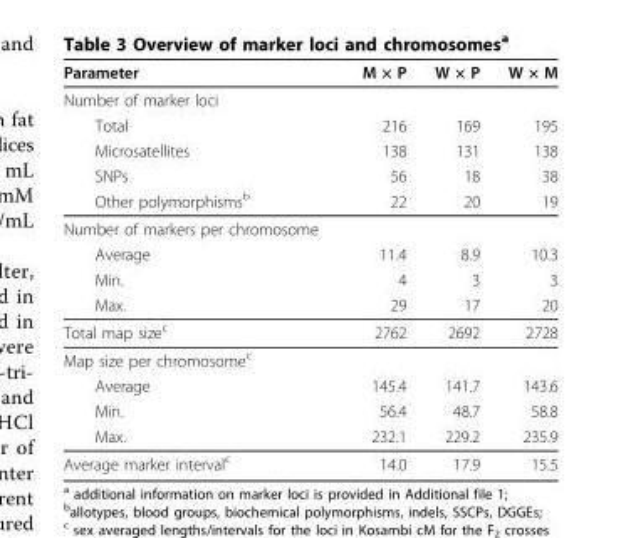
<table><thead><tr><td>Parameter</td><td>M × P</td><td>W × P</td><td>W × M</td></tr></thead><tbody><tr><td colspan="4">Number of marker loci</td></tr><tr><td>Total</td><td>216</td><td>169</td><td>195</td></tr><tr><td>Microsatellites</td><td>138</td><td>131</td><td>138</td></tr><tr><td>SNPs</td><td>56</td><td>18</td><td>38</td></tr><tr><td>Other polymorphisms<sup>b</sup></td><td>22</td><td>20</td><td>19</td></tr><tr><td colspan="4">Number of markers per chromosome</td></tr><tr><td>Average</td><td>11.4</td><td>8.9</td><td>10.3</td></tr><tr><td>Min.</td><td>4</td><td>3</td><td>3</td></tr><tr><td>Max.</td><td>29</td><td>17</td><td>20</td></tr><tr><td>Total map size<sup>c</sup></td><td>2762</td><td>2692</td><td>2728</td></tr><tr><td colspan="4">Map size per chromosome<sup>c</sup></td></tr><tr><td>Average</td><td>145.4</td><td>141.7</td><td>143.6</td></tr><tr><td>Min.</td><td>56.4</td><td>48.7</td><td>58.8</td></tr><tr><td>Max.</td><td>232.1</td><td>229.2</td><td>235.9</td></tr><tr><td>Average marker interval<sup>c</sup></td><td>14.0</td><td>17.9</td><td>15.5</td></tr></tbody></table>